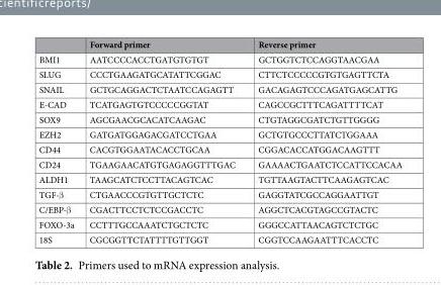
<table><thead><tr><td></td><td>Forward primer</td><td>Reverse primer</td></tr></thead><tbody><tr><td>BMI1</td><td>AATCCCCACCTGATGTGTGT</td><td>GCTGGTCTCCAGGTAACGAA</td></tr><tr><td>SLUG</td><td>CCCTGAAGATGCATATTCGGAC</td><td>CTTCTCCCCCGTGTGAGTTCTA</td></tr><tr><td>SNAIL</td><td>GCTGCAGGACTCTAATCCAGAGTT</td><td>GACAGAGTCCCAGATGAGCATTG</td></tr><tr><td>E-CAD</td><td>TCATGAGTGTCCCCCGGTAT</td><td>CAGCCGCTTTCAGATTTTCAT</td></tr><tr><td>SOX9</td><td>AGCGAACGCACATCAAGAC</td><td>CTGTAGGCGATCTGTTGGGG</td></tr><tr><td>EZH2</td><td>GATGATGGAGACGATCCTGAA</td><td>GCTGTGCCCTTATCTGGAAA</td></tr><tr><td>CD44</td><td>CACGTGGAATACACCTGCAA</td><td>CGGACACCATGGACAAGTTT</td></tr><tr><td>CD24</td><td>TGAAGAACATGTGAGAGGTTTGAC</td><td>GAAAACTGAATCTCCATTCCACAA</td></tr><tr><td>ALDH1</td><td>TAAGCATCTCCTTACAGTCAC</td><td>TGTTAAGTACTTCAAGAGTCAC</td></tr><tr><td>TGF-β</td><td>CTGAACCCGTGTTGCTCTC</td><td>GAGGTATCGCCAGGAATTGT</td></tr><tr><td>C/EBP-β</td><td>CGACTTCCTCTCCGACCTC</td><td>AGGCTCACGTAGCCGTACTC</td></tr><tr><td>FOXO-3a</td><td>CCTTTGCCAAATCTGCTCTC</td><td>GGGCCATTAACAGTCTCTGC</td></tr><tr><td>18S</td><td>CGCGGTTCTATTTTGTTGGT</td><td>CGGTCCAAGAATTTCACCTC</td></tr></tbody></table>